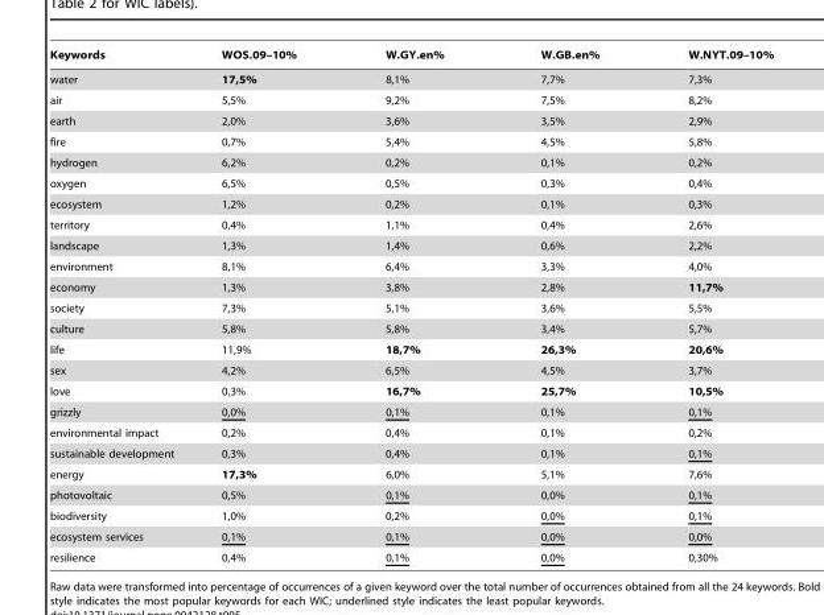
<table><thead><tr><td>Keywords</td><td>WOS.09–10%</td><td>W.GY.en%</td><td>W.GB.en%</td><td>W.NYT.09–10%</td></tr></thead><tbody><tr><td>water</td><td>17,5%</td><td>8,1%</td><td>7,7%</td><td>7,3%</td></tr><tr><td>air</td><td>5,5%</td><td>9,2%</td><td>7,5%</td><td>8,2%</td></tr><tr><td>earth</td><td>2,0%</td><td>3,6%</td><td>3,5%</td><td>2,9%</td></tr><tr><td>fire</td><td>0,7%</td><td>5,4%</td><td>4,5%</td><td>5,8%</td></tr><tr><td>hydrogen</td><td>6,2%</td><td>0,2%</td><td>0,1%</td><td>0,2%</td></tr><tr><td>oxygen</td><td>6,5%</td><td>0,5%</td><td>0,3%</td><td>0,4%</td></tr><tr><td>ecosystem</td><td>1,2%</td><td>0,2%</td><td>0,1%</td><td>0,3%</td></tr><tr><td>territory</td><td>0,4%</td><td>1,1%</td><td>0,4%</td><td>2,6%</td></tr><tr><td>landscape</td><td>1,3%</td><td>1,4%</td><td>0,6%</td><td>2,2%</td></tr><tr><td>environment</td><td>8,1%</td><td>6,4%</td><td>3,3%</td><td>4,0%</td></tr><tr><td>economy</td><td>1,3%</td><td>3,8%</td><td>2,8%</td><td>11,7%</td></tr><tr><td>society</td><td>7,3%</td><td>5,1%</td><td>3,6%</td><td>5,5%</td></tr><tr><td>culture</td><td>5,8%</td><td>5,8%</td><td>3,4%</td><td>5,7%</td></tr><tr><td>life</td><td>11,9%</td><td>18,7%</td><td>26,3%</td><td>20,6%</td></tr><tr><td>sex</td><td>4,2%</td><td>6,5%</td><td>4,5%</td><td>3,7%</td></tr><tr><td>love</td><td>0,3%</td><td>16,7%</td><td>25,7%</td><td>10,5%</td></tr><tr><td>grizzly</td><td>0,0%</td><td>0,1%</td><td>0,1%</td><td>0,1%</td></tr><tr><td>environmental impact</td><td>0,2%</td><td>0,4%</td><td>0,1%</td><td>0,2%</td></tr><tr><td>sustainable development</td><td>0,3%</td><td>0,4%</td><td>0,1%</td><td>0,1%</td></tr><tr><td>energy</td><td>17,3%</td><td>6,0%</td><td>5,1%</td><td>7,6%</td></tr><tr><td>photovoltaic</td><td>0,5%</td><td>0,1%</td><td>0,0%</td><td>0,1%</td></tr><tr><td>biodiversity</td><td>1,0%</td><td>0,2%</td><td>0,0%</td><td>0,1%</td></tr><tr><td>ecosystem services</td><td>0,1%</td><td>0,1%</td><td>0,0%</td><td>0,0%</td></tr><tr><td>resilience</td><td>0,4%</td><td>0,1%</td><td>0,0%</td><td>0,30%</td></tr></tbody></table>